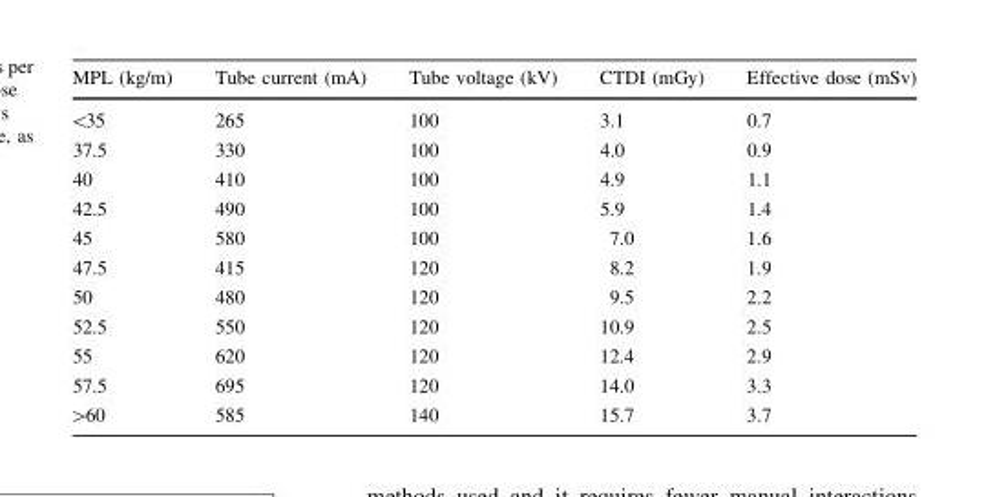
<table><thead><tr><td>MPL (kg/m)</td><td>Tube current (mA)</td><td>Tube voltage (kV)</td><td>CTDI (mGy)</td><td>Effective dose (mSv)</td></tr></thead><tbody><tr><td>&lt;35</td><td>265</td><td>100</td><td>3.1</td><td>0.7</td></tr><tr><td>37.5</td><td>330</td><td>100</td><td>4.0</td><td>0.9</td></tr><tr><td>40</td><td>410</td><td>100</td><td>4.9</td><td>1.1</td></tr><tr><td>42.5</td><td>490</td><td>100</td><td>5.9</td><td>1.4</td></tr><tr><td>45</td><td>580</td><td>100</td><td>7.0</td><td>1.6</td></tr><tr><td>47.5</td><td>415</td><td>120</td><td>8.2</td><td>1.9</td></tr><tr><td>50</td><td>480</td><td>120</td><td>9.5</td><td>2.2</td></tr><tr><td>52.5</td><td>550</td><td>120</td><td>10.9</td><td>2.5</td></tr><tr><td>55</td><td>620</td><td>120</td><td>12.4</td><td>2.9</td></tr><tr><td>57.5</td><td>695</td><td>120</td><td>14.0</td><td>3.3</td></tr><tr><td>&gt;60</td><td>585</td><td>140</td><td>15.7</td><td>3.7</td></tr></tbody></table>